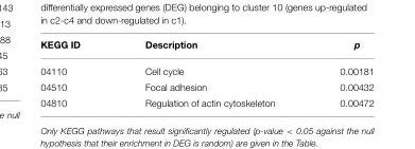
<table><thead><tr><td>KEGG ID</td><td>Description</td><td>p</td></tr></thead><tbody><tr><td>04110</td><td>Cell cycle</td><td>0.00181</td></tr><tr><td>04510</td><td>Focal adhesion</td><td>0.00432</td></tr><tr><td>04810</td><td>Regulation of actin cytoskeleton</td><td>0.00472</td></tr></tbody></table>